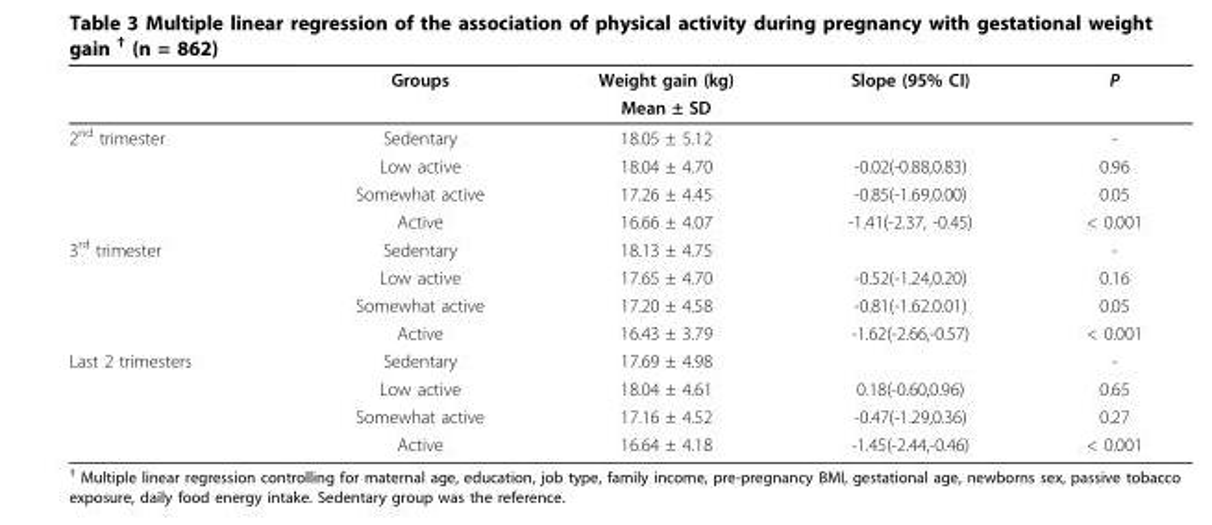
<table><thead><tr><td rowspan="2"></td><td rowspan="2">Groups</td><td rowspan="2">Weight gain (kg) Mean ± SD</td><td rowspan="2">Slope (95% CI)</td><td rowspan="2">P</td></tr><tr></tr></thead><tbody><tr><td rowspan="4">2<sup>nd</sup> trimester</td><td>Sedentary</td><td>18.05 ± 5.12</td><td></td><td>-</td></tr><tr><td>Low active</td><td>18.04 ± 4.70</td><td>-0.02(-0.88,0.83)</td><td>0.96</td></tr><tr><td>Somewhat active</td><td>17.26 ± 4.45</td><td>-0.85(-1.69,0.00)</td><td>0.05</td></tr><tr><td>Active</td><td>16.66 ± 4.07</td><td>-1.41(-2.37, -0.45)</td><td>&lt; 0.001</td></tr><tr><td rowspan="4">3<sup>rd</sup> trimester</td><td>Sedentary</td><td>18.13 ± 4.75</td><td></td><td>-</td></tr><tr><td>Low active</td><td>17.65 ± 4.70</td><td>-0.52(-1.24,0.20)</td><td>0.16</td></tr><tr><td>Somewhat active</td><td>17.20 ± 4.58</td><td>-0.81(-1.62.0.01)</td><td>0.05</td></tr><tr><td>Active</td><td>16.43 ± 3.79</td><td>-1.62(-2.66,-0.57)</td><td>&lt; 0.001</td></tr><tr><td rowspan="4">Last 2 trimesters</td><td>Sedentary</td><td>17.69 ± 4.98</td><td></td><td>-</td></tr><tr><td>Low active</td><td>18.04 ± 4.61</td><td>0.18(-0.60,0.96)</td><td>0.65</td></tr><tr><td>Somewhat active</td><td>17.16 ± 4.52</td><td>-0.47(-1.29,0.36)</td><td>0.27</td></tr><tr><td>Active</td><td>16.64 ± 4.18</td><td>-1.45(-2.44,-0.46)</td><td>&lt; 0.001</td></tr></tbody></table>